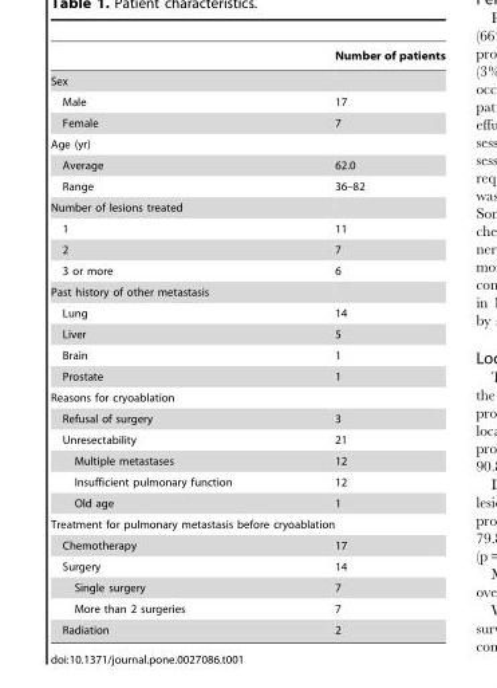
<table><thead><tr><td></td><td>Number of patients</td></tr></thead><tbody><tr><td colspan="2">Sex</td></tr><tr><td>Male</td><td>17</td></tr><tr><td>Female</td><td>7</td></tr><tr><td colspan="2">Age (yr)</td></tr><tr><td>Average</td><td>62.0</td></tr><tr><td>Range</td><td>36–82</td></tr><tr><td colspan="2">Number of lesions treated</td></tr><tr><td>1</td><td>11</td></tr><tr><td>2</td><td>7</td></tr><tr><td>3 or more</td><td>6</td></tr><tr><td colspan="2">Past history of other metastasis</td></tr><tr><td>Lung</td><td>14</td></tr><tr><td>Liver</td><td>5</td></tr><tr><td>Brain</td><td>1</td></tr><tr><td>Prostate</td><td>1</td></tr><tr><td colspan="2">Reasons for cryoablation</td></tr><tr><td>Refusal of surgery</td><td>3</td></tr><tr><td>Unresectability</td><td>21</td></tr><tr><td>Multiple metastases</td><td>12</td></tr><tr><td>Insufficient pulmonary function</td><td>12</td></tr><tr><td>Old age</td><td>1</td></tr><tr><td colspan="2">Treatment for pulmonary metastasis before cryoablation</td></tr><tr><td>Chemotherapy</td><td>17</td></tr><tr><td>Surgery</td><td>14</td></tr><tr><td>Single surgery</td><td>7</td></tr><tr><td>More than 2 surgeries</td><td>7</td></tr><tr><td>Radiation</td><td>2</td></tr></tbody></table>